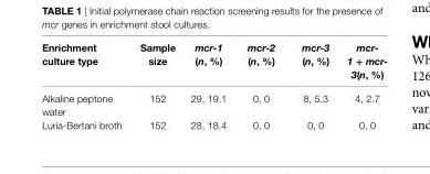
<table><thead><tr><td>enrichment culture type</td><td>sample size</td><td>mcr-1 (n, %)</td><td>mcr-2 (n, %)</td><td>mcr-3 (n, %)</td><td>mcr- 1 + mcr- 3(n, %)</td></tr></thead><tbody><tr><td>Alkaline peptone water</td><td>152</td><td>29, 19.1</td><td>0, 0</td><td>8, 5.3</td><td>4, 2.7</td></tr><tr><td>Luria-Bertani broth</td><td>152</td><td>28, 18.4</td><td>0, 0</td><td>0, 0</td><td>0, 0</td></tr></tbody></table>